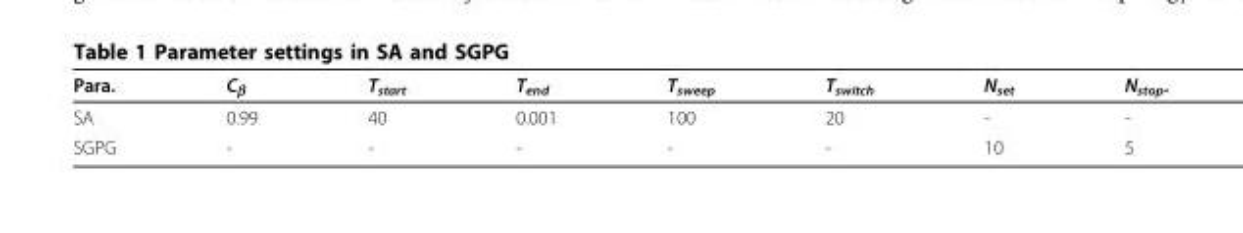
<table><thead><tr><td>Para.</td><td>C<sub>β</sub></td><td>T<sub>start</sub></td><td>T<sub>end</sub></td><td>T<sub>sweep</sub></td><td>T<sub>switch</sub></td><td>N<sub>set</sub></td><td>N<sub>stop</sub>.</td></tr></thead><tbody><tr><td>SA</td><td>0.99</td><td>40</td><td>0.001</td><td>100</td><td>20</td><td>-</td><td>-</td></tr><tr><td>SGPG</td><td>-</td><td>-</td><td>-</td><td>-</td><td>-</td><td>10</td><td>5</td></tr></tbody></table>